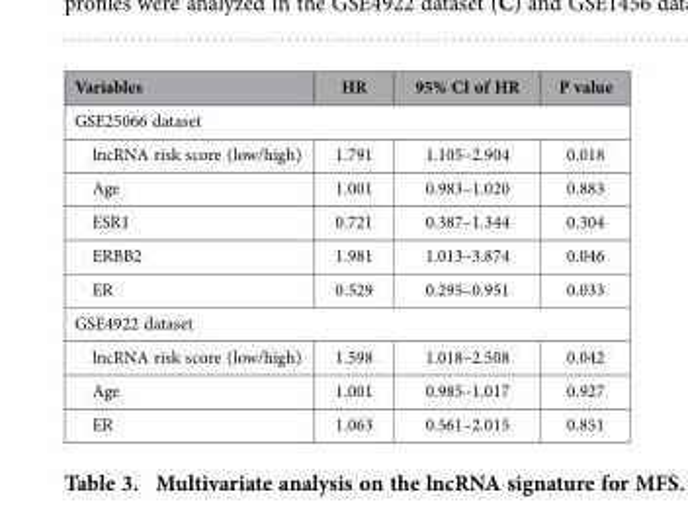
<table><thead><tr><td>Variables</td><td>HR</td><td>95% CI of HR</td><td>P value</td></tr></thead><tbody><tr><td colspan="4">GSE25066 dataset</td></tr><tr><td>lncRNA risk score (low/high)</td><td>1.791</td><td>1.105–2.904</td><td>0.018</td></tr><tr><td>Age</td><td>1.001</td><td>0.983–1.020</td><td>0.883</td></tr><tr><td>ESR1</td><td>0.721</td><td>0.387–1.344</td><td>0.304</td></tr><tr><td>ERBB2</td><td>1.981</td><td>1.013–3.874</td><td>0.046</td></tr><tr><td>ER</td><td>0.529</td><td>0.295–0.951</td><td>0.033</td></tr><tr><td colspan="4">GSE4922 dataset</td></tr><tr><td>lncRNA risk score (low/high)</td><td>1.598</td><td>1.018–2.508</td><td>0.042</td></tr><tr><td>Age</td><td>1.001</td><td>0.985–1.017</td><td>0.927</td></tr><tr><td>ER</td><td>1.063</td><td>0.561–2.015</td><td>0.851</td></tr></tbody></table>